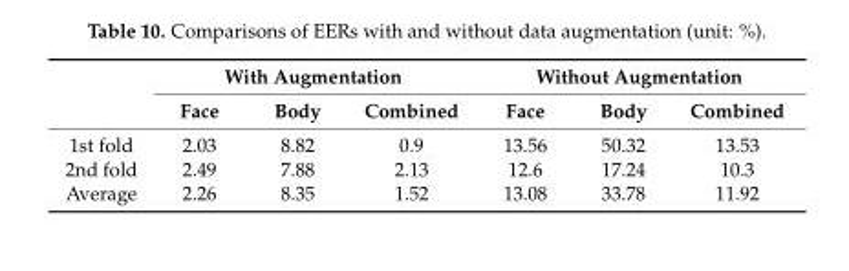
<table><thead><tr><td rowspan="2"></td><td colspan="3">With Augmentation</td><td colspan="3">Without Augmentation</td></tr><tr><td>Face</td><td>Body</td><td>Combined</td><td>Face</td><td>Body</td><td>Combined</td></tr></thead><tbody><tr><td>1st fold</td><td>2.03</td><td>8.82</td><td>0.9</td><td>13.56</td><td>50.32</td><td>13.53</td></tr><tr><td>2nd fold</td><td>2.49</td><td>7.88</td><td>2.13</td><td>12.6</td><td>17.24</td><td>10.3</td></tr><tr><td>Average</td><td>2.26</td><td>8.35</td><td>1.52</td><td>13.08</td><td>33.78</td><td>11.92</td></tr></tbody></table>